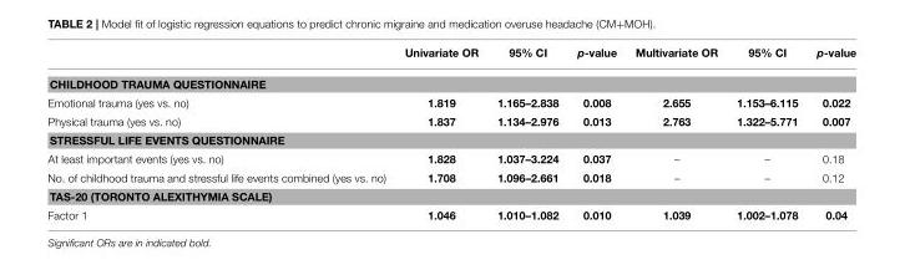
<table><thead><tr><td></td><td>Univariate OR</td><td>95% CI</td><td>p-value</td><td>Multivariate OR</td><td>95% CI</td><td>p-value</td></tr></thead><tbody><tr><td colspan="7">CHILDHOOD TRAUMA QUESTIONNAIRE</td></tr><tr><td>Emotional trauma (yes vs. no)</td><td>1.819</td><td>1.165–2.838</td><td>0.008</td><td>2.655</td><td>1.153–6.115</td><td>0.022</td></tr><tr><td>Physical trauma (yes vs. no)</td><td>1.837</td><td>1.134–2.976</td><td>0.013</td><td>2.763</td><td>1.322–5.771</td><td>0.007</td></tr><tr><td colspan="7">STRESSFUL LIFE EVENTS QUESTIONNAIRE</td></tr><tr><td>At least important events (yes vs. no)</td><td>1.828</td><td>1.037–3.224</td><td>0.037</td><td>–</td><td>–</td><td>0.18</td></tr><tr><td>No. of childhood trauma and stressful life events combined (yes vs. no)</td><td>1.708</td><td>1.096–2.661</td><td>0.018</td><td>–</td><td>–</td><td>0.12</td></tr><tr><td colspan="7">TAS-20 (TORONTO ALEXITHYMIA SCALE)</td></tr><tr><td>Factor 1</td><td>1.046</td><td>1.010–1.082</td><td>0.010</td><td>1.039</td><td>1.002–1.078</td><td>0.04</td></tr></tbody></table>